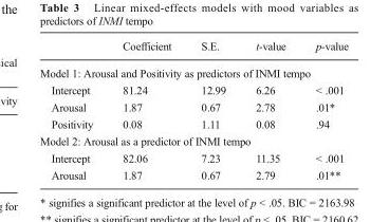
<table><thead><tr><td></td><td>Coefficient</td><td>S.E.</td><td>t-value</td><td>p-value</td></tr></thead><tbody><tr><td colspan="5">Model 1: Arousal and Positivity as predictors of INMI tempo</td></tr><tr><td>Intercept</td><td>81.24</td><td>12.99</td><td>6.26</td><td>&lt; .001</td></tr><tr><td>Arousal</td><td>1.87</td><td>0.67</td><td>2.78</td><td>.01*</td></tr><tr><td>Positivity</td><td>0.08</td><td>1.11</td><td>0.08</td><td>.94</td></tr><tr><td colspan="5">Model 2: Arousal as a predictor of INMI tempo</td></tr><tr><td>Intercept</td><td>82.06</td><td>7.23</td><td>11.35</td><td>&lt; .001</td></tr><tr><td>Arousal</td><td>1.87</td><td>0.67</td><td>2.79</td><td>.01**</td></tr></tbody></table>